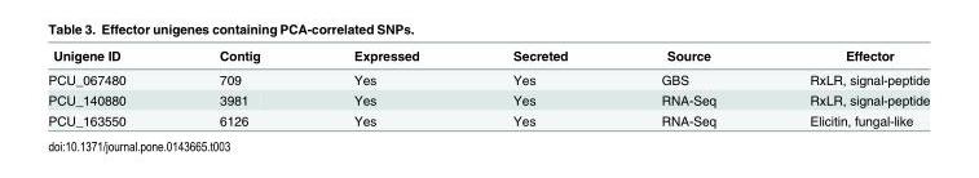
<table><thead><tr><td>Unigene ID</td><td>Contig</td><td>Expressed</td><td>Secreted</td><td>Source</td><td>Effector</td></tr></thead><tbody><tr><td>PCU_067480</td><td>709</td><td>Yes</td><td>Yes</td><td>GBS</td><td>RxLR, signal-peptide</td></tr><tr><td>PCU_140880</td><td>3981</td><td>Yes</td><td>Yes</td><td>RNA-Seq</td><td>RxLR, signal-peptide</td></tr><tr><td>PCU_163550</td><td>6126</td><td>Yes</td><td>Yes</td><td>RNA-Seq</td><td>Elicitin, fungal-like</td></tr></tbody></table>